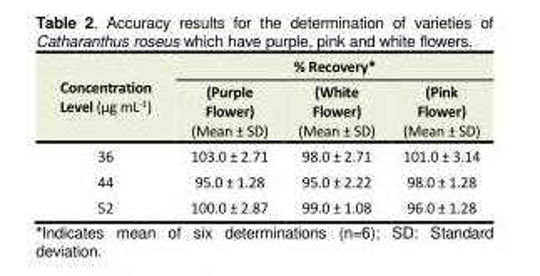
<table><tbody><tr><td rowspan="2">Concentration Level (μg mL<sup>-1</sup>)</td><td colspan="3">% Recovery*</td></tr><tr><td>(Purple Flower) (Mean ± SD)</td><td>(White Flower) (Mean ± SD)</td><td>(Pink Flower) (Mean ± SD)</td></tr><tr><td>36</td><td>103.0 ± 2.71</td><td>98.0 ± 2.71</td><td>101.0 ± 3.14</td></tr><tr><td>44</td><td>95.0 ± 1.28</td><td>95.0 ± 2.22</td><td>98.0 ± 1.28</td></tr><tr><td>52</td><td>100.0 ± 2.87</td><td>99.0 ± 1.08</td><td>96.0 ± 1.28</td></tr></tbody></table>